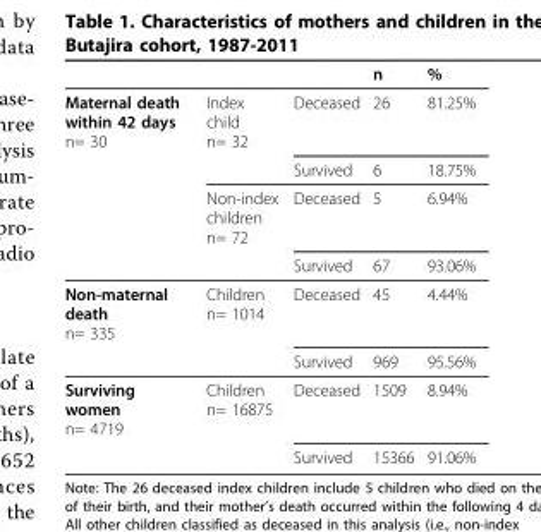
<table><thead><tr><td></td><td></td><td></td><td>n</td><td>%</td></tr></thead><tbody><tr><td rowspan="4">Maternal death within 42 days n= 30</td><td>Index child n= 32</td><td>Deceased</td><td>26</td><td>81.25%</td></tr><tr><td></td><td>Survived</td><td>6</td><td>18.75%</td></tr><tr><td>Non-index children n= 72</td><td>Deceased</td><td>5</td><td>6.94%</td></tr><tr><td></td><td>Survived</td><td>67</td><td>93.06%</td></tr><tr><td rowspan="2">Non-maternal death n= 335</td><td>Children n= 1014</td><td>Deceased</td><td>45</td><td>4.44%</td></tr><tr><td></td><td>Survived</td><td>969</td><td>95.56%</td></tr><tr><td rowspan="2">Surviving women n= 4719</td><td>Children n= 16875</td><td>Deceased</td><td>1509</td><td>8.94%</td></tr><tr><td></td><td>Survived</td><td>15366</td><td>91.06%</td></tr></tbody></table>